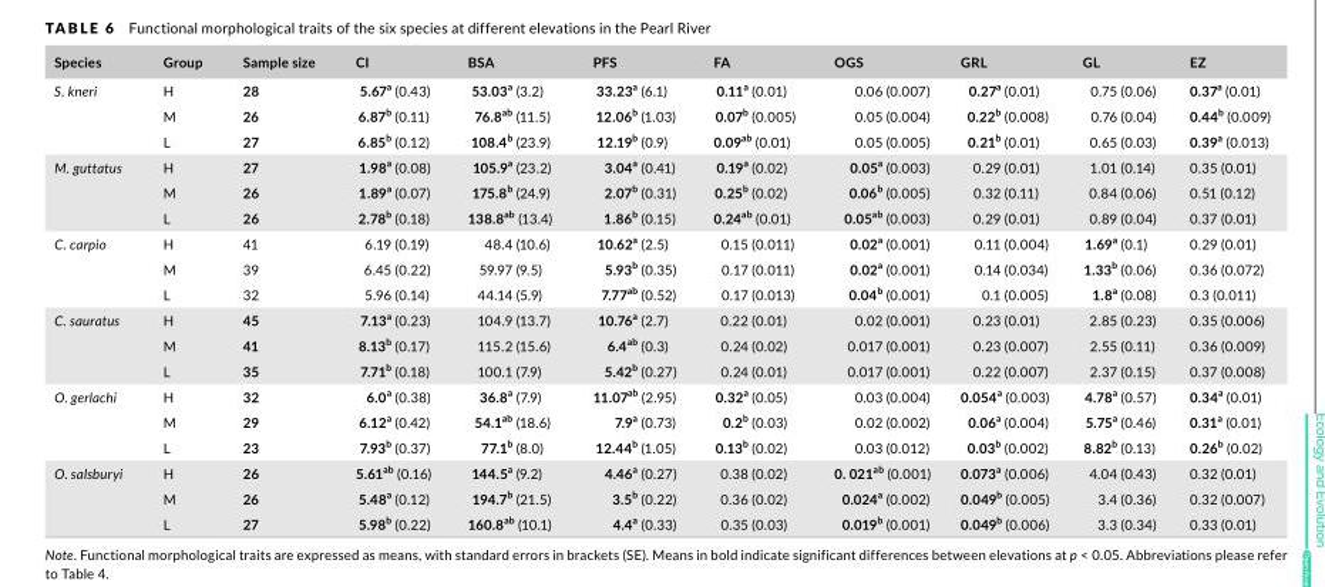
<table><thead><tr><td>Species</td><td>Group</td><td>Sample size</td><td>CI</td><td>BSA</td><td>PFS</td><td>FA</td><td>OGS</td><td>GRL</td><td>GL</td><td>EZ</td></tr></thead><tbody><tr><td rowspan="3">S. kneri</td><td>H</td><td>28</td><td>5.67<sup>a</sup> (0.43)</td><td>53.03<sup>a</sup> (3.2)</td><td>33.23<sup>a</sup> (6.1)</td><td>0.11<sup>a</sup> (0.01)</td><td>0.06 (0.007)</td><td>0.27<sup>a</sup> (0.01)</td><td>0.75 (0.06)</td><td>0.37<sup>a</sup> (0.01)</td></tr><tr><td>M</td><td>26</td><td>6.87<sup>b</sup> (0.11)</td><td>76.8<sup>ab</sup> (11.5)</td><td>12.06<sup>b</sup> (1.03)</td><td>0.07<sup>b</sup> (0.005)</td><td>0.05 (0.004)</td><td>0.22<sup>b</sup> (0.008)</td><td>0.76 (0.04)</td><td>0.44<sup>b</sup> (0.009)</td></tr><tr><td>L</td><td>27</td><td>6.85<sup>b</sup> (0.12)</td><td>108.4<sup>b</sup> (23.9)</td><td>12.19<sup>b</sup> (0.9)</td><td>0.09<sup>ab</sup> (0.01)</td><td>0.05 (0.005)</td><td>0.21<sup>b</sup> (0.01)</td><td>0.65 (0.03)</td><td>0.39<sup>a</sup> (0.013)</td></tr><tr><td rowspan="3">M. guttatus</td><td>H</td><td>27</td><td>1.98<sup>a</sup> (0.08)</td><td>105.9<sup>a</sup> (23.2)</td><td>3.04<sup>a</sup> (0.41)</td><td>0.19<sup>a</sup> (0.02)</td><td>0.05<sup>a</sup> (0.003)</td><td>0.29 (0.01)</td><td>1.01 (0.14)</td><td>0.35 (0.01)</td></tr><tr><td>M</td><td>26</td><td>1.89<sup>a</sup> (0.07)</td><td>175.8<sup>b</sup> (24.9)</td><td>2.07<sup>b</sup> (0.31)</td><td>0.25<sup>b</sup> (0.02)</td><td>0.06<sup>b</sup> (0.005)</td><td>0.32 (0.11)</td><td>0.84 (0.06)</td><td>0.51 (0.12)</td></tr><tr><td>L</td><td>26</td><td>2.78<sup>b</sup> (0.18)</td><td>138.8<sup>ab</sup> (13.4)</td><td>1.86<sup>b</sup> (0.15)</td><td>0.24<sup>ab</sup> (0.01)</td><td>0.05<sup>ab</sup> (0.003)</td><td>0.29 (0.01)</td><td>0.89 (0.04)</td><td>0.37 (0.01)</td></tr><tr><td rowspan="3">C. carpio</td><td>H</td><td>41</td><td>6.19 (0.19)</td><td>48.4 (10.6)</td><td>10.62<sup>a</sup> (2.5)</td><td>0.15 (0.011)</td><td>0.02<sup>a</sup> (0.001)</td><td>0.11 (0.004)</td><td>1.69<sup>a</sup> (0.1)</td><td>0.29 (0.01)</td></tr><tr><td>M</td><td>39</td><td>6.45 (0.22)</td><td>59.97 (9.5)</td><td>5.93<sup>b</sup> (0.35)</td><td>0.17 (0.011)</td><td>0.02<sup>a</sup> (0.001)</td><td>0.14 (0.034)</td><td>1.33<sup>b</sup> (0.06)</td><td>0.36 (0.072)</td></tr><tr><td>L</td><td>32</td><td>5.96 (0.14)</td><td>44.14 (5.9)</td><td>7.77<sup>ab</sup> (0.52)</td><td>0.17 (0.013)</td><td>0.04<sup>b</sup> (0.001)</td><td>0.1 (0.005)</td><td>1.8<sup>a</sup> (0.08)</td><td>0.3 (0.011)</td></tr><tr><td rowspan="3">C. sauratus</td><td>H</td><td>45</td><td>7.13<sup>a</sup> (0.23)</td><td>104.9 (13.7)</td><td>10.76<sup>a</sup> (2.7)</td><td>0.22 (0.01)</td><td>0.02 (0.001)</td><td>0.23 (0.01)</td><td>2.85 (0.23)</td><td>0.35 (0.006)</td></tr><tr><td>M</td><td>41</td><td>8.13<sup>b</sup> (0.17)</td><td>115.2 (15.6)</td><td>6.4<sup>ab</sup> (0.3)</td><td>0.24 (0.02)</td><td>0.017 (0.001)</td><td>0.23 (0.007)</td><td>2.55 (0.11)</td><td>0.36 (0.009)</td></tr><tr><td>L</td><td>35</td><td>7.71<sup>b</sup> (0.18)</td><td>100.1 (7.9)</td><td>5.42<sup>b</sup> (0.27)</td><td>0.24 (0.01)</td><td>0.017 (0.001)</td><td>0.22 (0.007)</td><td>2.37 (0.15)</td><td>0.37 (0.008)</td></tr><tr><td rowspan="3">O. gerlachi</td><td>H</td><td>32</td><td>6.0<sup>a</sup> (0.38)</td><td>36.8<sup>a</sup> (7.9)</td><td>11.07<sup>ab</sup> (2.95)</td><td>0.32<sup>a</sup> (0.05)</td><td>0.03 (0.004)</td><td>0.054<sup>a</sup> (0.003)</td><td>4.78<sup>a</sup> (0.57)</td><td>0.34<sup>a</sup> (0.01)</td></tr><tr><td>M</td><td>29</td><td>6.12<sup>a</sup> (0.42)</td><td>54.1<sup>ab</sup> (18.6)</td><td>7.9<sup>a</sup> (0.73)</td><td>0.2<sup>b</sup> (0.03)</td><td>0.02 (0.002)</td><td>0.06<sup>a</sup> (0.004)</td><td>5.75<sup>a</sup> (0.46)</td><td>0.31<sup>a</sup> (0.01)</td></tr><tr><td>L</td><td>23</td><td>7.93<sup>b</sup> (0.37)</td><td>77.1<sup>b</sup> (8.0)</td><td>12.44<sup>b</sup> (1.05)</td><td>0.13<sup>b</sup> (0.02)</td><td>0.03 (0.012)</td><td>0.03<sup>b</sup> (0.002)</td><td>8.82<sup>b</sup> (0.13)</td><td>0.26<sup>b</sup> (0.02)</td></tr><tr><td rowspan="3">O. salsburyi</td><td>H</td><td>26</td><td>5.61<sup>ab</sup> (0.16)</td><td>144.5<sup>a</sup> (9.2)</td><td>4.46<sup>a</sup> (0.27)</td><td>0.38 (0.02)</td><td>0. 021<sup>ab</sup> (0.001)</td><td>0.073<sup>a</sup> (0.006)</td><td>4.04 (0.43)</td><td>0.32 (0.01)</td></tr><tr><td>M</td><td>26</td><td>5.48<sup>a</sup> (0.12)</td><td>194.7<sup>b</sup> (21.5)</td><td>3.5<sup>b</sup> (0.22)</td><td>0.36 (0.02)</td><td>0.024<sup>a</sup> (0.002)</td><td>0.049<sup>b</sup> (0.005)</td><td>3.4 (0.36)</td><td>0.32 (0.007)</td></tr><tr><td>L</td><td>27</td><td>5.98<sup>b</sup> (0.22)</td><td>160.8<sup>ab</sup> (10.1)</td><td>4.4<sup>a</sup> (0.33)</td><td>0.35 (0.03)</td><td>0.019<sup>b</sup> (0.001)</td><td>0.049<sup>b</sup> (0.006)</td><td>3.3 (0.34)</td><td>0.33 (0.01)</td></tr></tbody></table>